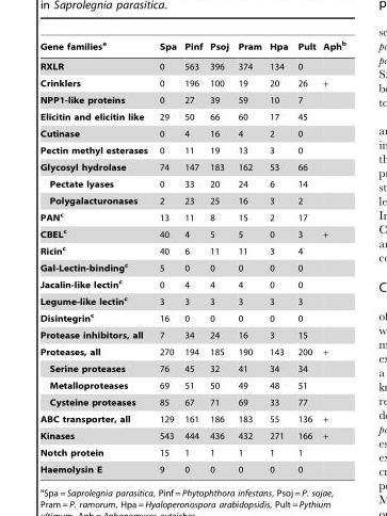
<table><thead><tr><td>Gene families<sup>a</sup></td><td>Spa</td><td>Pinf</td><td>Psoj</td><td>Pram</td><td>Hpa</td><td>Pult</td><td>Aph<sup>b</sup></td></tr></thead><tbody><tr><td>RXLR</td><td>0</td><td>563</td><td>396</td><td>374</td><td>134</td><td>0</td><td></td></tr><tr><td>Crinklers</td><td>0</td><td>196</td><td>100</td><td>19</td><td>20</td><td>26</td><td>+</td></tr><tr><td>NPP1-like proteins</td><td>0</td><td>27</td><td>39</td><td>59</td><td>10</td><td>7</td><td></td></tr><tr><td>Elicitin and elicitin like</td><td>29</td><td>50</td><td>66</td><td>60</td><td>17</td><td>45</td><td></td></tr><tr><td>Cutinase</td><td>0</td><td>4</td><td>16</td><td>4</td><td>2</td><td>0</td><td></td></tr><tr><td>Pectin methyl esterases</td><td>0</td><td>11</td><td>19</td><td>13</td><td>3</td><td>0</td><td></td></tr><tr><td>Glycosyl hydrolase</td><td>74</td><td>147</td><td>183</td><td>162</td><td>53</td><td>66</td><td></td></tr><tr><td>Pectate lyases</td><td>0</td><td>33</td><td>20</td><td>24</td><td>6</td><td>14</td><td></td></tr><tr><td>Polygalacturonases</td><td>2</td><td>23</td><td>25</td><td>16</td><td>3</td><td>2</td><td></td></tr><tr><td>PANc</td><td>13</td><td>11</td><td>8</td><td>15</td><td>2</td><td>17</td><td></td></tr><tr><td>CBELc</td><td>40</td><td>4</td><td>5</td><td>5</td><td>0</td><td>3</td><td>+</td></tr><tr><td>Ricinc</td><td>40</td><td>6</td><td>11</td><td>11</td><td>3</td><td>4</td><td></td></tr><tr><td>Gal-Lectin-bindingc</td><td>5</td><td>0</td><td>0</td><td>0</td><td>0</td><td>0</td><td></td></tr><tr><td>Jacalin-like lectinc</td><td>0</td><td>4</td><td>4</td><td>4</td><td>0</td><td>0</td><td></td></tr><tr><td>Legume-like lectinc</td><td>3</td><td>3</td><td>3</td><td>3</td><td>3</td><td>3</td><td></td></tr><tr><td>Disintegrinc</td><td>16</td><td>0</td><td>0</td><td>0</td><td>0</td><td>0</td><td></td></tr><tr><td>Protease inhibitors, all</td><td>7</td><td>34</td><td>24</td><td>16</td><td>3</td><td>15</td><td></td></tr><tr><td>Proteases, all</td><td>270</td><td>194</td><td>185</td><td>190</td><td>143</td><td>200</td><td>+</td></tr><tr><td>Serine proteases</td><td>76</td><td>45</td><td>32</td><td>41</td><td>34</td><td>34</td><td></td></tr><tr><td>Metalloproteases</td><td>69</td><td>51</td><td>50</td><td>49</td><td>48</td><td>51</td><td></td></tr><tr><td>Cysteine proteases</td><td>85</td><td>67</td><td>71</td><td>69</td><td>33</td><td>77</td><td></td></tr><tr><td>ABC transporter, all</td><td>129</td><td>161</td><td>186</td><td>183</td><td>55</td><td>136</td><td>+</td></tr><tr><td>Kinases</td><td>543</td><td>444</td><td>436</td><td>432</td><td>271</td><td>166</td><td>+</td></tr><tr><td>Notch protein</td><td>15</td><td>1</td><td>1</td><td>1</td><td>1</td><td>1</td><td></td></tr><tr><td>Haemolysin E</td><td>9</td><td>0</td><td>0</td><td>0</td><td>0</td><td>0</td><td></td></tr></tbody></table>